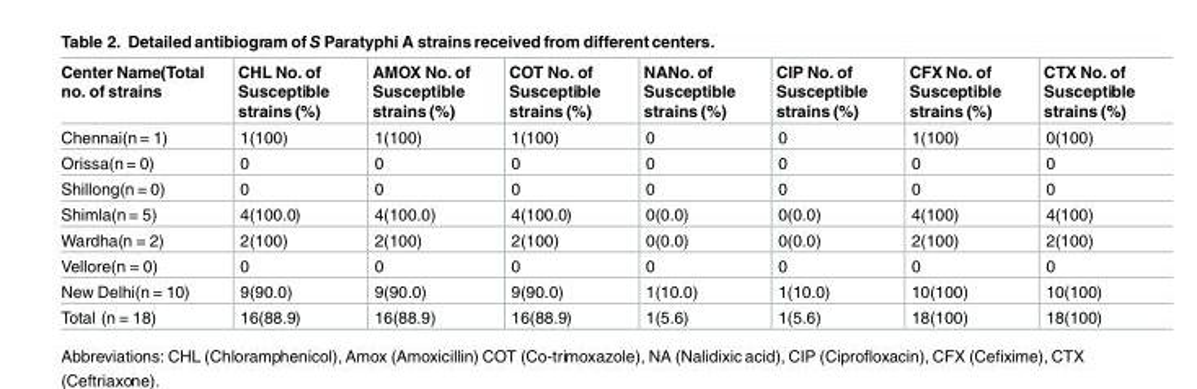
<table><thead><tr><td>Center Name(Total no. of strains</td><td>CHL No. of Susceptible strains (%)</td><td>AMOX No. of Susceptible strains (%)</td><td>COT No. of Susceptible strains (%)</td><td>NANo. of Susceptible strains (%)</td><td>CIP No. of Susceptible strains (%)</td><td>CFX No. of Susceptible strains (%)</td><td>CTX No. of Susceptible strains (%)</td></tr></thead><tbody><tr><td>Chennai(n = 1)</td><td>1(100)</td><td>1(100)</td><td>1(100)</td><td>0</td><td>0</td><td>1(100)</td><td>0(100)</td></tr><tr><td>Orissa(n = 0)</td><td>0</td><td>0</td><td>0</td><td>0</td><td>0</td><td>0</td><td>0</td></tr><tr><td>Shillong(n = 0)</td><td>0</td><td>0</td><td>0</td><td>0</td><td>0</td><td>0</td><td>0</td></tr><tr><td>Shimla(n = 5)</td><td>4(100.0)</td><td>4(100.0)</td><td>4(100.0)</td><td>0(0.0)</td><td>0(0.0)</td><td>4(100)</td><td>4(100)</td></tr><tr><td>Wardha(n = 2)</td><td>2(100)</td><td>2(100)</td><td>2(100)</td><td>0(0.0)</td><td>0(0.0)</td><td>2(100)</td><td>2(100)</td></tr><tr><td>Vellore(n = 0)</td><td>0</td><td>0</td><td>0</td><td>0</td><td>0</td><td>0</td><td>0</td></tr><tr><td>New Delhi(n = 10)</td><td>9(90.0)</td><td>9(90.0)</td><td>9(90.0)</td><td>1(10.0)</td><td>1(10.0)</td><td>10(100)</td><td>10(100)</td></tr><tr><td>Total (n = 18)</td><td>16(88.9)</td><td>16(88.9)</td><td>16(88.9)</td><td>1(5.6)</td><td>1(5.6)</td><td>18(100)</td><td>18(100)</td></tr></tbody></table>